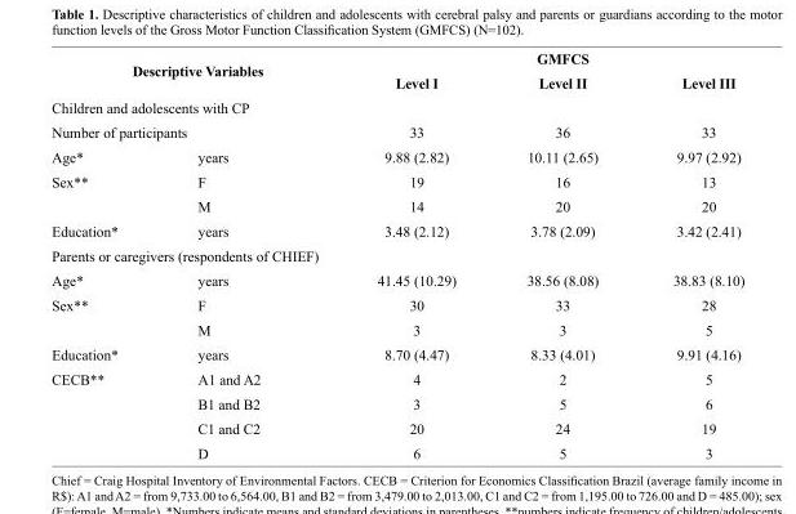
<table><thead><tr><td rowspan="2" colspan="2">Descriptive Variables</td><td colspan="3">GMFCS</td></tr><tr><td>Level I</td><td>Level II</td><td>Level III</td></tr><tr><td colspan="5">Children and adolescents with CP</td></tr><tr><td colspan="2">Number of participants</td><td rowspan="2">33 9.88 (2.82)</td><td rowspan="2">36 10.11 (2.65)</td><td rowspan="2">33 9.97 (2.92)</td></tr><tr><td>Age*</td><td>years</td></tr></thead><tbody><tr><td rowspan="2">Sex**</td><td>F</td><td>19</td><td>16</td><td>13</td></tr><tr><td>M</td><td>14</td><td>20</td><td>20</td></tr><tr><td>Education*</td><td>years</td><td>3.48 (2.12)</td><td>3.78 (2.09)</td><td>3.42 (2.41)</td></tr><tr><td colspan="5">Parents or caregivers (respondents of CHIEF)</td></tr><tr><td>Age*</td><td>years</td><td>41.45 (10.29)</td><td>38.56 (8.08)</td><td>38.83 (8.10)</td></tr><tr><td rowspan="2">Sex**</td><td>F</td><td>30</td><td>33</td><td>28</td></tr><tr><td>M</td><td>3</td><td>3</td><td>5</td></tr><tr><td>Education*</td><td>years</td><td>8.70 (4.47)</td><td>8.33 (4.01)</td><td>9.91 (4.16)</td></tr><tr><td rowspan="4">CECB**</td><td>A1 and A2</td><td>4</td><td>2</td><td>5</td></tr><tr><td>B1 and B2</td><td>3</td><td>5</td><td>6</td></tr><tr><td>C1 and C2</td><td>20</td><td>24</td><td>19</td></tr><tr><td>D</td><td>6</td><td>5</td><td>3</td></tr></tbody></table>